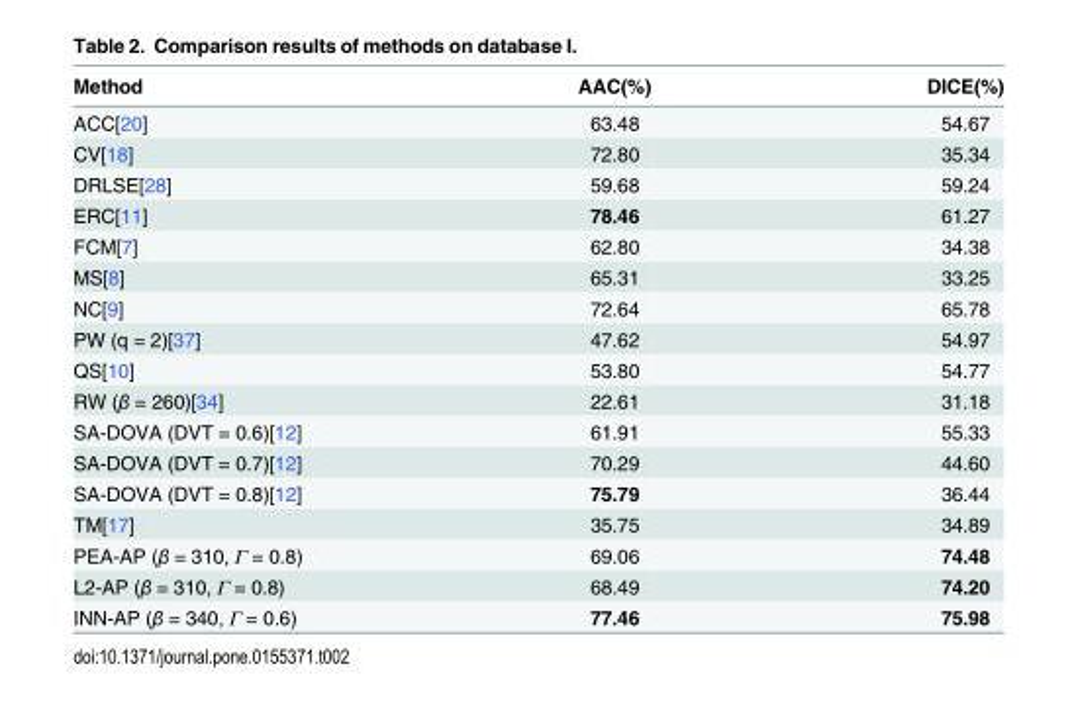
<table><thead><tr><td>Method</td><td>AAC(%)</td><td>DICE(%)</td></tr></thead><tbody><tr><td>ACC[20]</td><td>63.48</td><td>54.67</td></tr><tr><td>CV[18]</td><td>72.80</td><td>35.34</td></tr><tr><td>DRLSE[28]</td><td>59.68</td><td>59.24</td></tr><tr><td>ERC[11]</td><td>78.46</td><td>61.27</td></tr><tr><td>FCM[7]</td><td>62.80</td><td>34.38</td></tr><tr><td>MS[8]</td><td>65.31</td><td>33.25</td></tr><tr><td>NC[9]</td><td>72.64</td><td>65.78</td></tr><tr><td>PW (q = 2)[37]</td><td>47.62</td><td>54.97</td></tr><tr><td>QS[10]</td><td>53.80</td><td>54.77</td></tr><tr><td>RW (β = 260)[34]</td><td>22.61</td><td>31.18</td></tr><tr><td>SA-DOVA (DVT = 0.6)[12]</td><td>61.91</td><td>55.33</td></tr><tr><td>SA-DOVA (DVT = 0.7)[12]</td><td>70.29</td><td>44.60</td></tr><tr><td>SA-DOVA (DVT = 0.8)[12]</td><td>75.79</td><td>36.44</td></tr><tr><td>TM[17]</td><td>35.75</td><td>34.89</td></tr><tr><td>PEA-AP (β = 310, Γ = 0.8)</td><td>69.06</td><td>74.48</td></tr><tr><td>L2-AP (β = 310, Γ = 0.8)</td><td>68.49</td><td>74.20</td></tr><tr><td>INN-AP (β = 340, Γ = 0.6)</td><td>77.46</td><td>75.98</td></tr></tbody></table>